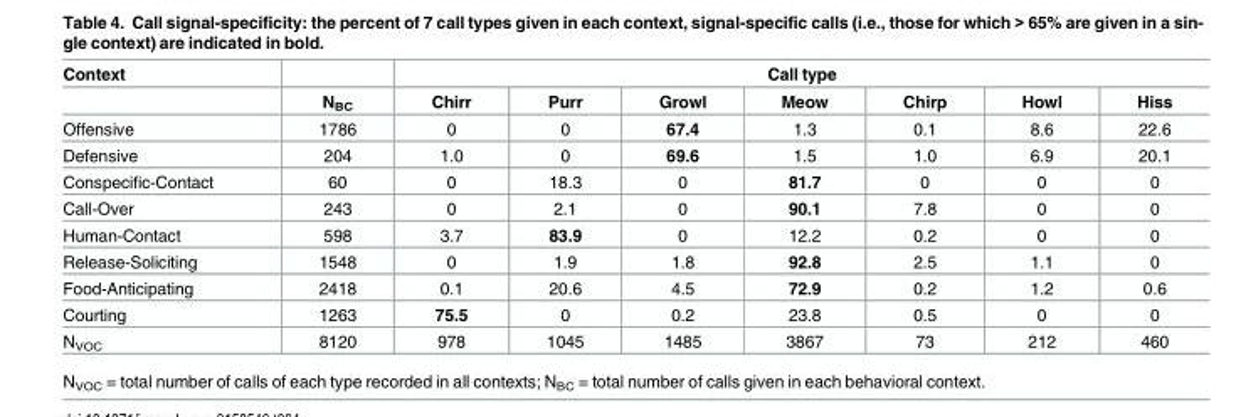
<table><thead><tr><td rowspan="2">Context</td><td rowspan="2">N<sub>BC</sub></td><td colspan="7">Call type</td></tr><tr><td>Chirr</td><td>Purr</td><td>Growl</td><td>Meow</td><td>Chirp</td><td>Howl</td><td>Hiss</td></tr></thead><tbody><tr><td>Offensive</td><td>1786</td><td>0</td><td>0</td><td>67.4</td><td>1.3</td><td>0.1</td><td>8.6</td><td>22.6</td></tr><tr><td>Defensive</td><td>204</td><td>1.0</td><td>0</td><td>69.6</td><td>1.5</td><td>1.0</td><td>6.9</td><td>20.1</td></tr><tr><td>Conspecific-Contact</td><td>60</td><td>0</td><td>18.3</td><td>0</td><td>81.7</td><td>0</td><td>0</td><td>0</td></tr><tr><td>Call-Over</td><td>243</td><td>0</td><td>2.1</td><td>0</td><td>90.1</td><td>7.8</td><td>0</td><td>0</td></tr><tr><td>Human-Contact</td><td>598</td><td>3.7</td><td>83.9</td><td>0</td><td>12.2</td><td>0.2</td><td>0</td><td>0</td></tr><tr><td>Release-Soliciting</td><td>1548</td><td>0</td><td>1.9</td><td>1.8</td><td>92.8</td><td>2.5</td><td>1.1</td><td>0</td></tr><tr><td>Food-Anticipating</td><td>2418</td><td>0.1</td><td>20.6</td><td>4.5</td><td>72.9</td><td>0.2</td><td>1.2</td><td>0.6</td></tr><tr><td>Courting</td><td>1263</td><td>75.5</td><td>0</td><td>0.2</td><td>23.8</td><td>0.5</td><td>0</td><td>0</td></tr><tr><td>N<sub>VOC</sub></td><td>8120</td><td>978</td><td>1045</td><td>1485</td><td>3867</td><td>73</td><td>212</td><td>460</td></tr></tbody></table>